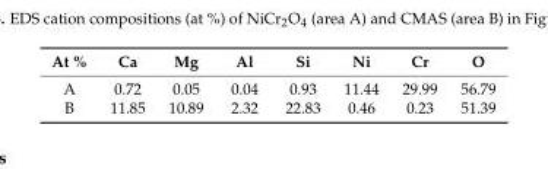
<table><thead><tr><td>At %</td><td>Ca</td><td>Mg</td><td>Al</td><td>Si</td><td>Ni</td><td>Cr</td><td>O</td></tr></thead><tbody><tr><td>A</td><td>0.72</td><td>0.05</td><td>0.04</td><td>0.93</td><td>11.44</td><td>29.99</td><td>56.79</td></tr><tr><td>B</td><td>11.85</td><td>10.89</td><td>2.32</td><td>22.83</td><td>0.46</td><td>0.23</td><td>51.39</td></tr></tbody></table>